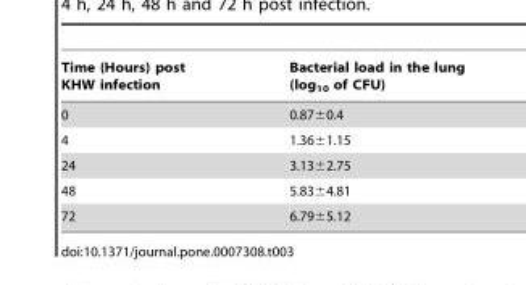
<table><thead><tr><td>Time (Hours) post KHW infection</td><td>Bacterial load in the lung (log<sub>10</sub> of CFU)</td></tr></thead><tbody><tr><td>0</td><td>0.87±0.4</td></tr><tr><td>4</td><td>1.36±1.15</td></tr><tr><td>24</td><td>3.13±2.75</td></tr><tr><td>48</td><td>5.83±4.81</td></tr><tr><td>72</td><td>6.79±5.12</td></tr></tbody></table>